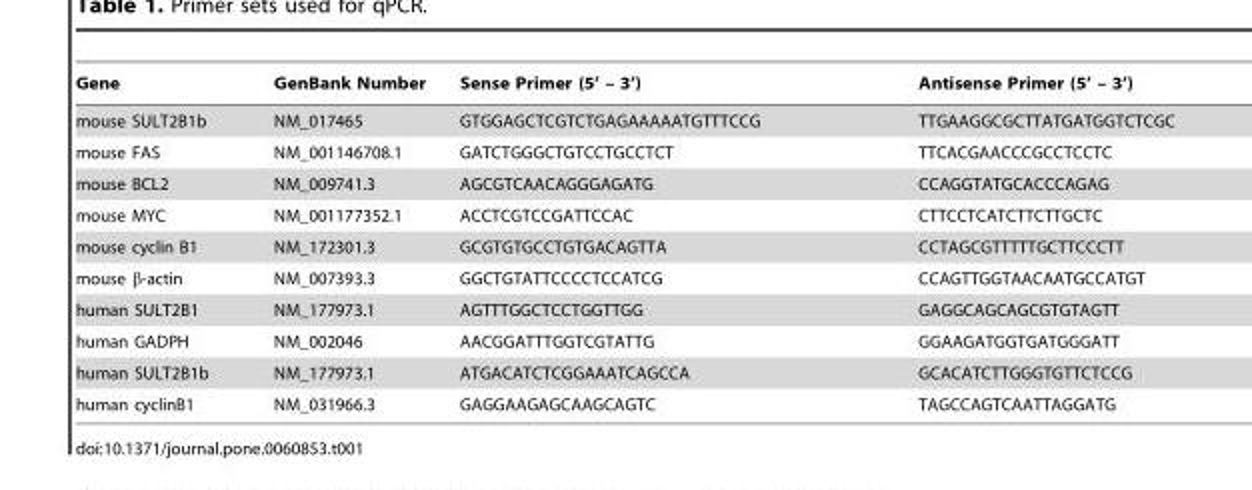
<table><thead><tr><td>Gene</td><td>GenBank Number</td><td>Sense Primer (5’ – 3’)</td><td>Antisense Primer (5’ – 3’)</td></tr></thead><tbody><tr><td>mouse SULT2B1b</td><td>NM_017465</td><td>GTGGAGCTCGTCTGAGAAAAATGTTTCCG</td><td>TTGAAGGCGCTTATGATGGTCTCGC</td></tr><tr><td>mouse FAS</td><td>NM_001146708.1</td><td>GATCTGGGCTGTCCTGCCTCT</td><td>TTCACGAACCCGCCTCCTC</td></tr><tr><td>mouse BCL2</td><td>NM_009741.3</td><td>AGCGTCAACAGGGAGATG</td><td>CCAGGTATGCACCCAGAG</td></tr><tr><td>mouse MYC</td><td>NM_001177352.1</td><td>ACCTCGTCCGATTCCAC</td><td>CTTCCTCATCTTCTTGCTC</td></tr><tr><td>mouse cyclin B1</td><td>NM_172301.3</td><td>GCGTGTGCCTGTGACAGTTA</td><td>CCTAGCGTTTTTGCTTCCCTT</td></tr><tr><td>mouse β-actin</td><td>NM_007393.3</td><td>GGCTGTATTCCCCTCCATCG</td><td>CCAGTTGGTAACAATGCCATGT</td></tr><tr><td>human SULT2B1</td><td>NM_177973.1</td><td>AGTTTGGCTCCTGGTTGG</td><td>GAGGCAGCAGCGTGTAGTT</td></tr><tr><td>human GADPH</td><td>NM_002046</td><td>AACGGATTTGGTCGTATTG</td><td>GGAAGATGGTGATGGGATT</td></tr><tr><td>human SULT2B1b</td><td>NM_177973.1</td><td>ATGACATCTCGGAAATCAGCCA</td><td>GCACATCTTGGGTGTTCTCCG</td></tr><tr><td>human cyclinB1</td><td>NM_031966.3</td><td>GAGGAAGAGCAAGCAGTC</td><td>TAGCCAGTCAATTAGGATG</td></tr></tbody></table>